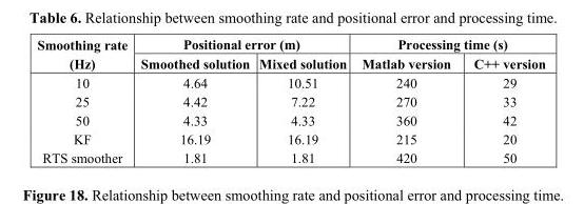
<table><thead><tr><td rowspan="2">Smoothing rate (Hz)</td><td colspan="2">Positional error (m)</td><td colspan="2">Processing time (s)</td></tr><tr><td>Smoothed solution</td><td>Mixed solution</td><td>Matlab version</td><td>C++ version</td></tr></thead><tbody><tr><td>10</td><td>4.64</td><td>10.51</td><td>240</td><td>29</td></tr><tr><td>25</td><td>4.42</td><td>7.22</td><td>270</td><td>33</td></tr><tr><td>50</td><td>4.33</td><td>4.33</td><td>360</td><td>42</td></tr><tr><td>KF</td><td>16.19</td><td>16.19</td><td>215</td><td>20</td></tr><tr><td>RTS smoother</td><td>1.81</td><td>1.81</td><td>420</td><td>50</td></tr></tbody></table>